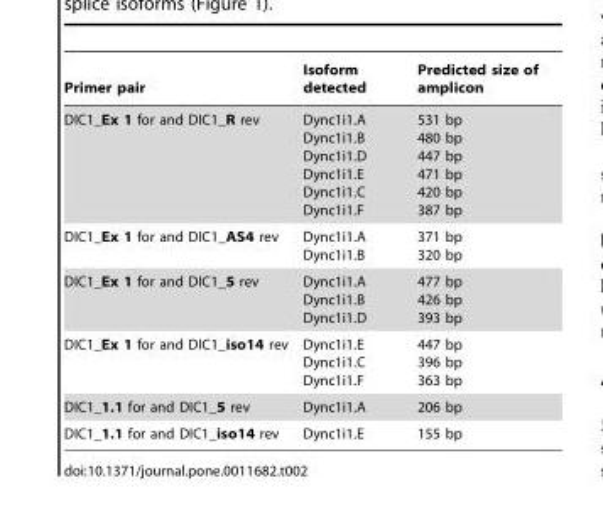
<table><thead><tr><td>Primer pair</td><td>Isoform detected</td><td>Predicted size of amplicon</td></tr></thead><tbody><tr><td>DIC1_Ex 1 for and DIC1_R rev</td><td>Dync1i1.A Dync1i1.B Dync1i1.D Dync1i1.E Dync1i1.C Dync1i1.F</td><td>531 bp 480 bp 447 bp 471 bp 420 bp 387 bp</td></tr><tr><td>DIC1_Ex 1 for and DIC1_AS4 rev</td><td>Dync1i1.A Dync1i1.B</td><td>371 bp 320 bp</td></tr><tr><td>DIC1_Ex 1 for and DIC1_5 rev</td><td>Dync1i1.A Dync1i1.B Dync1i1.D</td><td>477 bp 426 bp 393 bp</td></tr><tr><td>DIC1_Ex 1 for and DIC1_iso14 rev</td><td>Dync1i1.E Dync1i1.C Dync1i1.F</td><td>447 bp 396 bp 363 bp</td></tr><tr><td>DIC1_1.1 for and DIC1_5 rev</td><td>Dync1i1.A</td><td>206 bp</td></tr><tr><td>DIC1_1.1 for and DIC1_iso14 rev</td><td>Dync1i1.E</td><td>155 bp</td></tr></tbody></table>